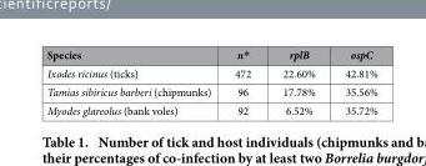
<table><thead><tr><td>Species</td><td>n*</td><td>rplB</td><td>ospC</td></tr></thead><tbody><tr><td>Ixodes ricinus (ticks)</td><td>472</td><td>22.60%</td><td>42.81%</td></tr><tr><td>Tamias sibiricus barberi (chipmunks)</td><td>96</td><td>17.78%</td><td>35.56%</td></tr><tr><td>Myodes glareolus (bank voles)</td><td>92</td><td>6.52%</td><td>35.72%</td></tr></tbody></table>